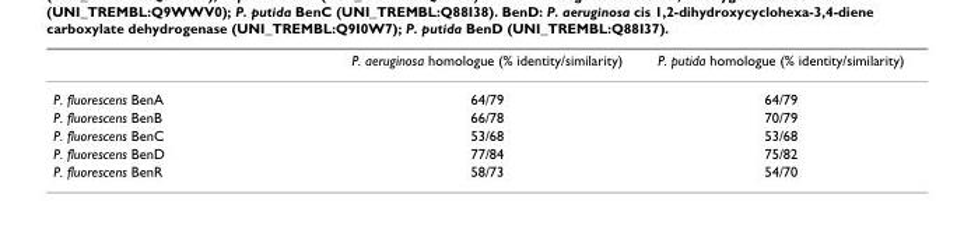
<table><thead><tr><td></td><td>P. aeruginosa homologue (% identity/similarity)</td><td>P. putida homologue (% identity/similarity)</td></tr></thead><tbody><tr><td>P. fluorescens BenA</td><td>64/79</td><td>64/79</td></tr><tr><td>P. fluorescens BenB</td><td>66/78</td><td>70/79</td></tr><tr><td>P. fluorescens BenC</td><td>53/68</td><td>53/68</td></tr><tr><td>P. fluorescens BenD</td><td>77/84</td><td>75/82</td></tr><tr><td>P. fluorescens BenR</td><td>58/73</td><td>54/70</td></tr></tbody></table>